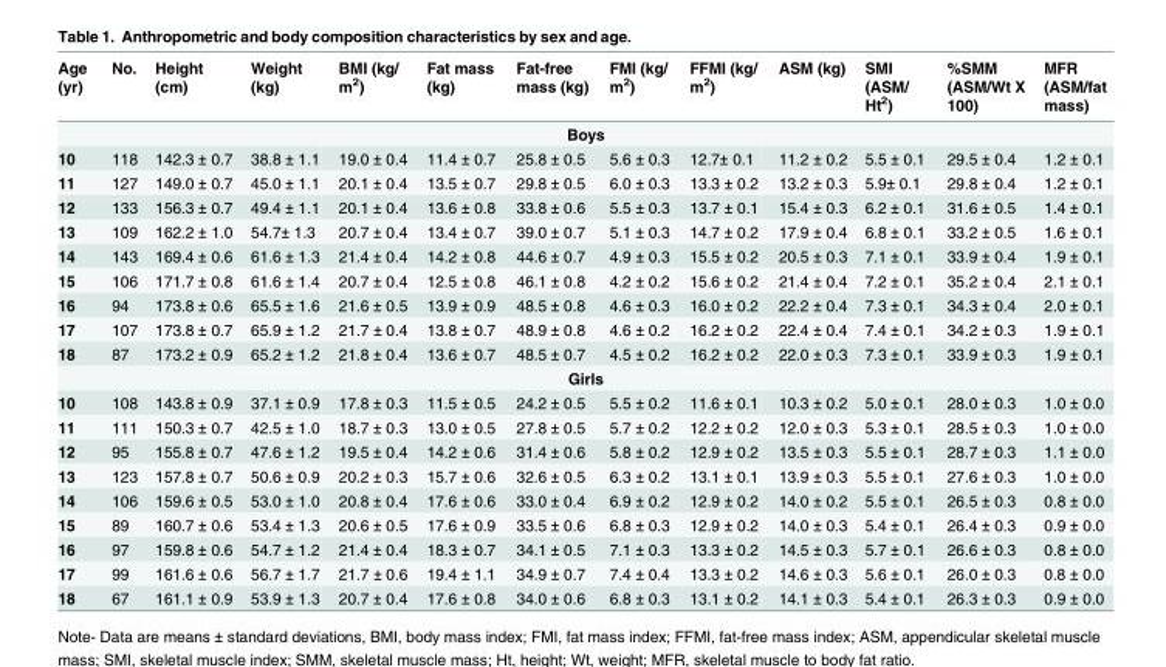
<table><thead><tr><td>Age (yr)</td><td>No.</td><td>Height (cm)</td><td>Weight (kg)</td><td>BMI (kg/ m<sup>2</sup>)</td><td>Fat mass (kg)</td><td>Fat-free mass (kg)</td><td>FMI (kg/ m<sup>2</sup>)</td><td>FFMI (kg/ m<sup>2</sup>)</td><td>ASM (kg)</td><td>SMI (ASM/ Ht<sup>2</sup>)</td><td>%SMM (ASM/Wt X 100)</td><td>MFR (ASM/fat mass)</td></tr></thead><tbody><tr><td colspan="13">Boys</td></tr><tr><td>10</td><td>118</td><td>142.3 ± 0.7</td><td>38.8 ± 1.1</td><td>19.0 ± 0.4</td><td>11.4 ± 0.7</td><td>25.8 ± 0.5</td><td>5.6 ± 0.3</td><td>12.7± 0.1</td><td>11.2 ± 0.2</td><td>5.5 ± 0.1</td><td>29.5 ± 0.4</td><td>1.2 ± 0.1</td></tr><tr><td>11</td><td>127</td><td>149.0 ± 0.7</td><td>45.0 ± 1.1</td><td>20.1 ± 0.4</td><td>13.5 ± 0.7</td><td>29.8 ± 0.5</td><td>6.0 ± 0.3</td><td>13.3 ± 0.2</td><td>13.2 ± 0.3</td><td>5.9± 0.1</td><td>29.8 ± 0.4</td><td>1.2 ± 0.1</td></tr><tr><td>12</td><td>133</td><td>156.3 ± 0.7</td><td>49.4 ± 1.1</td><td>20.1 ± 0.4</td><td>13.6 ± 0.8</td><td>33.8 ± 0.6</td><td>5.5 ± 0.3</td><td>13.7 ± 0.1</td><td>15.4 ± 0.3</td><td>6.2 ± 0.1</td><td>31.6 ± 0.5</td><td>1.4 ± 0.1</td></tr><tr><td>13</td><td>109</td><td>162.2 ± 1.0</td><td>54.7± 1.3</td><td>20.7 ± 0.4</td><td>13.4 ± 0.7</td><td>39.0 ± 0.7</td><td>5.1 ± 0.3</td><td>14.7 ± 0.2</td><td>17.9 ± 0.4</td><td>6.8 ± 0.1</td><td>33.2 ± 0.5</td><td>1.6 ± 0.1</td></tr><tr><td>14</td><td>143</td><td>169.4 ± 0.6</td><td>61.6 ± 1.3</td><td>21.4 ± 0.4</td><td>14.2 ± 0.8</td><td>44.6 ± 0.7</td><td>4.9 ± 0.3</td><td>15.5 ± 0.2</td><td>20.5 ± 0.3</td><td>7.1 ± 0.1</td><td>33.9 ± 0.4</td><td>1.9 ± 0.1</td></tr><tr><td>15</td><td>106</td><td>171.7 ± 0.8</td><td>61.6 ± 1.4</td><td>20.7 ± 0.4</td><td>12.5 ± 0.8</td><td>46.1 ± 0.8</td><td>4.2 ± 0.2</td><td>15.6 ± 0.2</td><td>21.4 ± 0.4</td><td>7.2 ± 0.1</td><td>35.2 ± 0.4</td><td>2.1 ± 0.1</td></tr><tr><td>16</td><td>94</td><td>173.8 ± 0.6</td><td>65.5 ± 1.6</td><td>21.6 ± 0.5</td><td>13.9 ± 0.9</td><td>48.5 ± 0.8</td><td>4.6 ± 0.3</td><td>16.0 ± 0.2</td><td>22.2 ± 0.4</td><td>7.3 ± 0.1</td><td>34.3 ± 0.4</td><td>2.0 ± 0.1</td></tr><tr><td>17</td><td>107</td><td>173.8 ± 0.7</td><td>65.9 ± 1.2</td><td>21.7 ± 0.4</td><td>13.8 ± 0.7</td><td>48.9 ± 0.8</td><td>4.6 ± 0.2</td><td>16.2 ± 0.2</td><td>22.4 ± 0.4</td><td>7.4 ± 0.1</td><td>34.2 ± 0.3</td><td>1.9 ± 0.1</td></tr><tr><td>18</td><td>87</td><td>173.2 ± 0.9</td><td>65.2 ± 1.2</td><td>21.8 ± 0.4</td><td>13.6 ± 0.7</td><td>48.5 ± 0.7</td><td>4.5 ± 0.2</td><td>16.2 ± 0.2</td><td>22.0 ± 0.3</td><td>7.3 ± 0.1</td><td>33.9 ± 0.3</td><td>1.9 ± 0.1</td></tr><tr><td colspan="13">Girls</td></tr><tr><td>10</td><td>108</td><td>143.8 ± 0.9</td><td>37.1 ± 0.9</td><td>17.8 ± 0.3</td><td>11.5 ± 0.5</td><td>24.2 ± 0.5</td><td>5.5 ± 0.2</td><td>11.6 ± 0.1</td><td>10.3 ± 0.2</td><td>5.0 ± 0.1</td><td>28.0 ± 0.3</td><td>1.0 ± 0.0</td></tr><tr><td>11</td><td>111</td><td>150.3 ± 0.7</td><td>42.5 ± 1.0</td><td>18.7 ± 0.3</td><td>13.0 ± 0.5</td><td>27.8 ± 0.5</td><td>5.7 ± 0.2</td><td>12.2 ± 0.2</td><td>12.0 ± 0.3</td><td>5.3 ± 0.1</td><td>28.5 ± 0.3</td><td>1.0 ± 0.0</td></tr><tr><td>12</td><td>95</td><td>155.8 ± 0.7</td><td>47.6 ± 1.2</td><td>19.5 ± 0.4</td><td>14.2 ± 0.6</td><td>31.4 ± 0.6</td><td>5.8 ± 0.2</td><td>12.9 ± 0.2</td><td>13.5 ± 0.3</td><td>5.5 ± 0.1</td><td>28.7 ± 0.3</td><td>1.1 ± 0.0</td></tr><tr><td>13</td><td>123</td><td>157.8 ± 0.7</td><td>50.6 ± 0.9</td><td>20.2 ± 0.3</td><td>15.7 ± 0.6</td><td>32.6 ± 0.5</td><td>6.3 ± 0.2</td><td>13.1 ± 0.1</td><td>13.9 ± 0.3</td><td>5.5 ± 0.1</td><td>27.6 ± 0.3</td><td>1.0 ± 0.0</td></tr><tr><td>14</td><td>106</td><td>159.6 ± 0.5</td><td>53.0 ± 1.0</td><td>20.8 ± 0.4</td><td>17.6 ± 0.6</td><td>33.0 ± 0.4</td><td>6.9 ± 0.2</td><td>12.9 ± 0.2</td><td>14.0 ± 0.2</td><td>5.5 ± 0.1</td><td>26.5 ± 0.3</td><td>0.8 ± 0.0</td></tr><tr><td>15</td><td>89</td><td>160.7 ± 0.6</td><td>53.4 ± 1.3</td><td>20.6 ± 0.5</td><td>17.6 ± 0.9</td><td>33.5 ± 0.6</td><td>6.8 ± 0.3</td><td>12.9 ± 0.2</td><td>14.0 ± 0.3</td><td>5.4 ± 0.1</td><td>26.4 ± 0.3</td><td>0.9 ± 0.0</td></tr><tr><td>16</td><td>97</td><td>159.8 ± 0.6</td><td>54.7 ± 1.2</td><td>21.4 ± 0.4</td><td>18.3 ± 0.7</td><td>34.1 ± 0.5</td><td>7.1 ± 0.3</td><td>13.3 ± 0.2</td><td>14.5 ± 0.3</td><td>5.7 ± 0.1</td><td>26.6 ± 0.3</td><td>0.8 ± 0.0</td></tr><tr><td>17</td><td>99</td><td>161.6 ± 0.6</td><td>56.7 ± 1.7</td><td>21.7 ± 0.6</td><td>19.4 ± 1.1</td><td>34.9 ± 0.7</td><td>7.4 ± 0.4</td><td>13.3 ± 0.2</td><td>14.6 ± 0.3</td><td>5.6 ± 0.1</td><td>26.0 ± 0.3</td><td>0.8 ± 0.0</td></tr><tr><td>18</td><td>67</td><td>161.1 ± 0.9</td><td>53.9 ± 1.3</td><td>20.7 ± 0.4</td><td>17.6 ± 0.8</td><td>34.0 ± 0.6</td><td>6.8 ± 0.3</td><td>13.1 ± 0.2</td><td>14.1 ± 0.3</td><td>5.4 ± 0.1</td><td>26.3 ± 0.3</td><td>0.9 ± 0.0</td></tr></tbody></table>